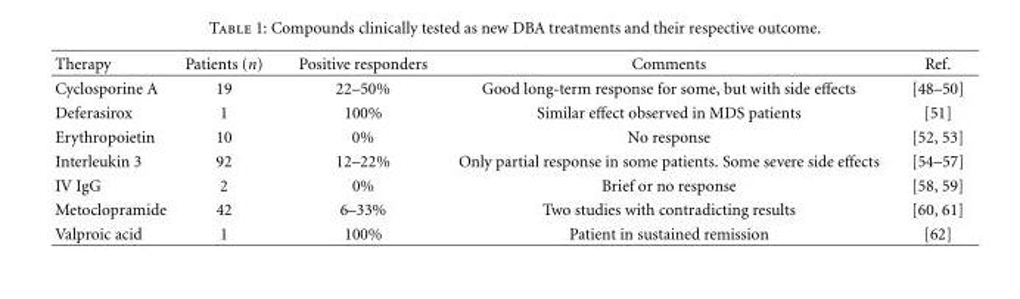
<table><thead><tr><td>Therapy</td><td>Patients (n)</td><td>Positive responders</td><td>Comments</td><td>Ref.</td></tr></thead><tbody><tr><td>Cyclosporine A</td><td>19</td><td>22–50%</td><td>Good long-term response for some, but with side effects</td><td>[48–50]</td></tr><tr><td>Deferasirox</td><td>1</td><td>100%</td><td>Similar effect observed in MDS patients</td><td>[51]</td></tr><tr><td>Erythropoietin</td><td>10</td><td>0%</td><td>No response</td><td>[52, 53]</td></tr><tr><td>Interleukin 3</td><td>92</td><td>12–22%</td><td>Only partial response in some patients. Some severe side effects</td><td>[54–57]</td></tr><tr><td>IV IgG</td><td>2</td><td>0%</td><td>Brief or no response</td><td>[58, 59]</td></tr><tr><td>Metoclopramide</td><td>42</td><td>6–33%</td><td>Two studies with contradicting results</td><td>[60, 61]</td></tr><tr><td>Valproic acid</td><td>1</td><td>100%</td><td>Patient in sustained remission</td><td>[62]</td></tr></tbody></table>